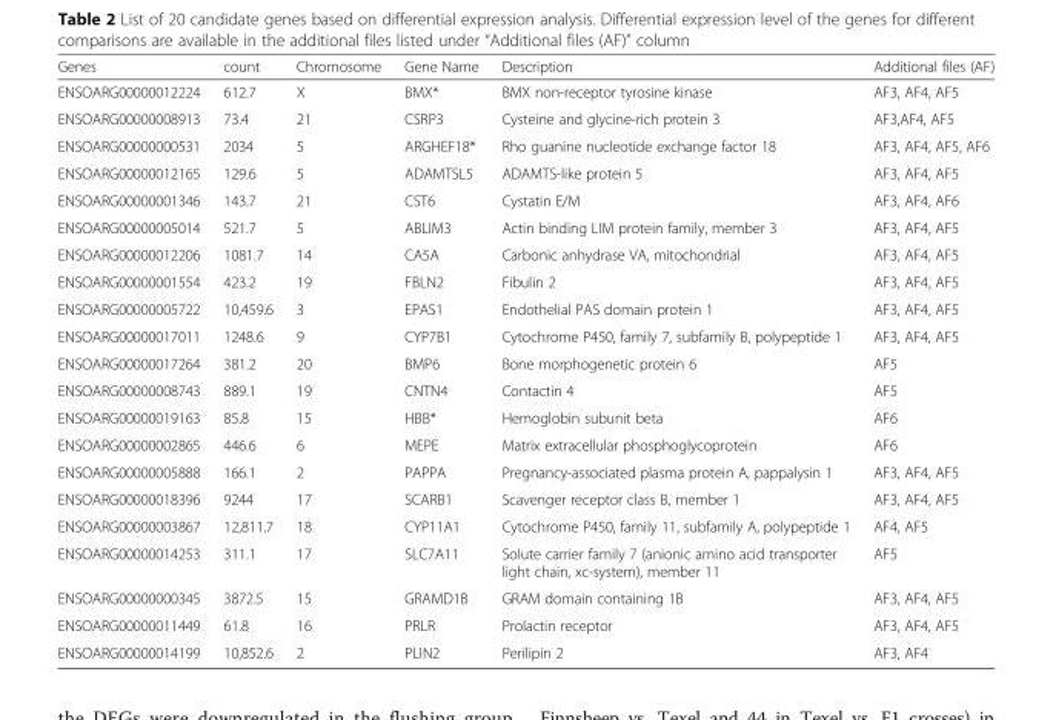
<table><thead><tr><td>Genes</td><td>count</td><td>Chromosome</td><td>Gene Name</td><td>Description</td><td>Additional files (AF)</td></tr></thead><tbody><tr><td>ENSOARG00000012224</td><td>612.7</td><td>X</td><td>BMX*</td><td>BMX non-receptor tyrosine kinase</td><td>AF3, AF4, AF5</td></tr><tr><td>ENSOARG00000008913</td><td>73.4</td><td>21</td><td>CSRP3</td><td>Cysteine and glycine-rich protein 3</td><td>AF3,AF4, AF5</td></tr><tr><td>ENSOARG00000000531</td><td>2034</td><td>5</td><td>ARGHEF18*</td><td>Rho guanine nucleotide exchange factor 18</td><td>AF3, AF4, AF5, AF6</td></tr><tr><td>ENSOARG00000012165</td><td>129.6</td><td>5</td><td>ADAMTSL5</td><td>ADAMTS-like protein 5</td><td>AF3, AF4, AF5</td></tr><tr><td>ENSOARG00000001346</td><td>143.7</td><td>21</td><td>CST6</td><td>Cystatin E/M</td><td>AF3, AF4, AF6</td></tr><tr><td>ENSOARG00000005014</td><td>521.7</td><td>5</td><td>ABLIM3</td><td>Actin binding LIM protein family, member 3</td><td>AF3, AF4, AF5</td></tr><tr><td>ENSOARG00000012206</td><td>1081.7</td><td>14</td><td>CA5A</td><td>Carbonic anhydrase VA, mitochondrial</td><td>AF3, AF4, AF5</td></tr><tr><td>ENSOARG00000001554</td><td>423.2</td><td>19</td><td>FBLN2</td><td>Fibulin 2</td><td>AF3, AF4, AF5</td></tr><tr><td>ENSOARG00000005722</td><td>10,459.6</td><td>3</td><td>EPAS1</td><td>Endothelial PAS domain protein 1</td><td>AF3, AF4, AF5</td></tr><tr><td>ENSOARG00000017011</td><td>1248.6</td><td>9</td><td>CYP7B1</td><td>Cytochrome P450, family 7, subfamily B, polypeptide 1</td><td>AF3, AF4, AF5</td></tr><tr><td>ENSOARG00000017264</td><td>381.2</td><td>20</td><td>BMP6</td><td>Bone morphogenetic protein 6</td><td>AF5</td></tr><tr><td>ENSOARG00000008743</td><td>889.1</td><td>19</td><td>CNTN4</td><td>Contactin 4</td><td>AF5</td></tr><tr><td>ENSOARG00000019163</td><td>85.8</td><td>15</td><td>HBB*</td><td>Hemoglobin subunit beta</td><td>AF6</td></tr><tr><td>ENSOARG00000002865</td><td>446.6</td><td>6</td><td>MEPE</td><td>Matrix extracellular phosphoglycoprotein</td><td>AF6</td></tr><tr><td>ENSOARG00000005888</td><td>166.1</td><td>2</td><td>PAPPA</td><td>Pregnancy-associated plasma protein A, pappalysin 1</td><td>AF3, AF4, AF5</td></tr><tr><td>ENSOARG00000018396</td><td>9244</td><td>17</td><td>SCARB1</td><td>Scavenger receptor class B, member 1</td><td>AF3, AF4, AF5</td></tr><tr><td>ENSOARG00000003867</td><td>12,811.7</td><td>18</td><td>CYP11A1</td><td>Cytochrome P450, family 11, subfamily A, polypeptide 1</td><td>AF4, AF5</td></tr><tr><td>ENSOARG00000014253</td><td>311.1</td><td>17</td><td>SLC7A11</td><td>Solute carrier family 7 (anionic amino acid transporter light chain, xc-system), member 11</td><td>AF5</td></tr><tr><td>ENSOARG00000000345</td><td>3872.5</td><td>15</td><td>GRAMD1B</td><td>GRAM domain containing 1B</td><td>AF3, AF4, AF5</td></tr><tr><td>ENSOARG00000011449</td><td>61.8</td><td>16</td><td>PRLR</td><td>Prolactin receptor</td><td>AF3, AF4, AF5</td></tr><tr><td>ENSOARG00000014199</td><td>10,852.6</td><td>2</td><td>PLIN2</td><td>Perilipin 2</td><td>AF3, AF4</td></tr></tbody></table>